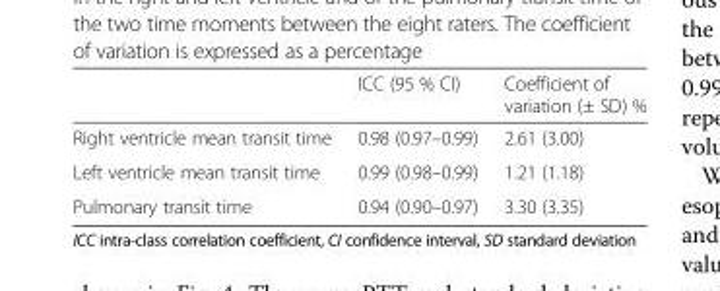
<table><thead><tr><td></td><td>ICC (95 % CI)</td><td>Coefficient of variation (± SD) %</td></tr></thead><tbody><tr><td>Right ventricle mean transit time</td><td>0.98 (0.97–0.99)</td><td>2.61 (3.00)</td></tr><tr><td>Left ventricle mean transit time</td><td>0.99 (0.98–0.99)</td><td>1.21 (1.18)</td></tr><tr><td>Pulmonary transit time</td><td>0.94 (0.90–0.97)</td><td>3.30 (3.35)</td></tr></tbody></table>